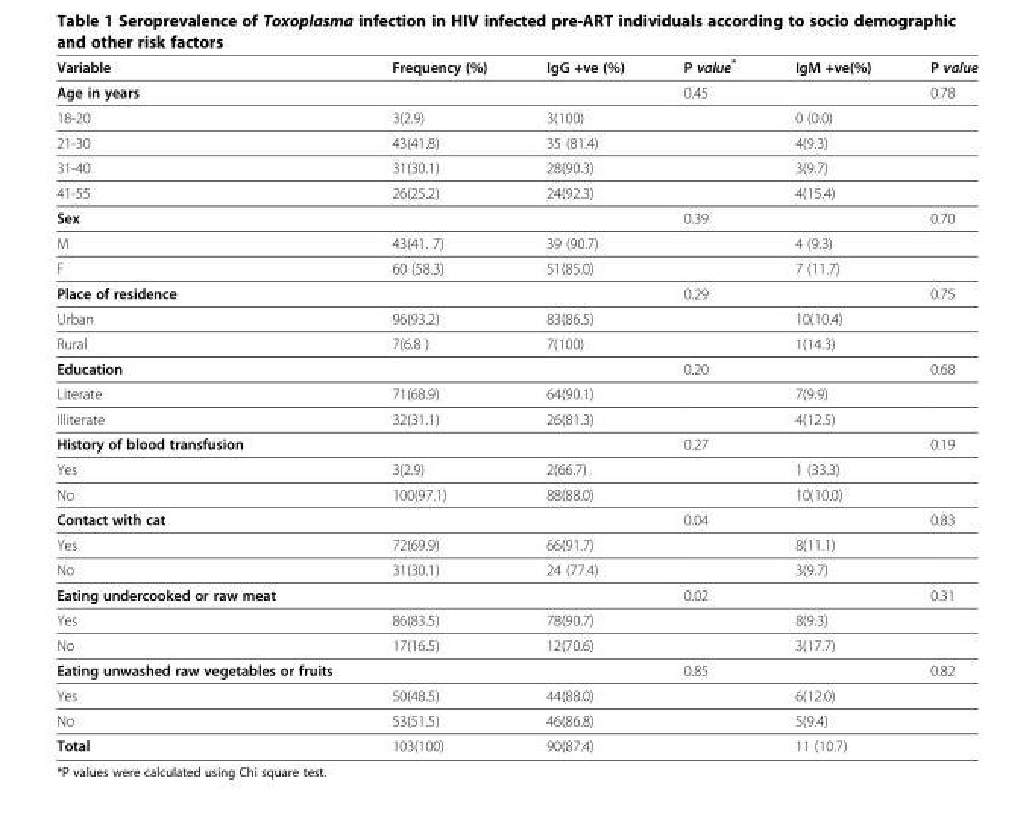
<table><thead><tr><td>Variable</td><td>Frequency (%)</td><td>IgG +ve (%)</td><td>P value*</td><td>IgM +ve(%)</td><td>P value</td></tr></thead><tbody><tr><td>Age in years</td><td></td><td></td><td>0.45</td><td></td><td>0.78</td></tr><tr><td>18-20</td><td>3(2.9)</td><td>3(100)</td><td></td><td>0 (0.0)</td><td></td></tr><tr><td>21-30</td><td>43(41.8)</td><td>35 (81.4)</td><td></td><td>4(9.3)</td><td></td></tr><tr><td>31-40</td><td>31(30.1)</td><td>28(90.3)</td><td></td><td>3(9.7)</td><td></td></tr><tr><td>41-55</td><td>26(25.2)</td><td>24(92.3)</td><td></td><td>4(15.4)</td><td></td></tr><tr><td>Sex</td><td></td><td></td><td>0.39</td><td></td><td>0.70</td></tr><tr><td>M</td><td>43(41. 7)</td><td>39 (90.7)</td><td></td><td>4 (9.3)</td><td></td></tr><tr><td>F</td><td>60 (58.3)</td><td>51(85.0)</td><td></td><td>7 (11.7)</td><td></td></tr><tr><td>Place of residence</td><td></td><td></td><td>0.29</td><td></td><td>0.75</td></tr><tr><td>Urban</td><td>96(93.2)</td><td>83(86.5)</td><td></td><td>10(10.4)</td><td></td></tr><tr><td>Rural</td><td>7(6.8 )</td><td>7(100)</td><td></td><td>1(14.3)</td><td></td></tr><tr><td>Education</td><td></td><td></td><td>0.20</td><td></td><td>0.68</td></tr><tr><td>Literate</td><td>71(68.9)</td><td>64(90.1)</td><td></td><td>7(9.9)</td><td></td></tr><tr><td>Illiterate</td><td>32(31.1)</td><td>26(81.3)</td><td></td><td>4(12.5)</td><td></td></tr><tr><td colspan="2">History of blood transfusion</td><td></td><td>0.27</td><td></td><td>0.19</td></tr><tr><td>Yes</td><td>3(2.9)</td><td>2(66.7)</td><td></td><td>1 (33.3)</td><td></td></tr><tr><td>No</td><td>100(97.1)</td><td>88(88.0)</td><td></td><td>10(10.0)</td><td></td></tr><tr><td>Contact with cat</td><td></td><td></td><td>0.04</td><td></td><td>0.83</td></tr><tr><td>Yes</td><td>72(69.9)</td><td>66(91.7)</td><td></td><td>8(11.1)</td><td></td></tr><tr><td>No</td><td>31(30.1)</td><td>24 (77.4)</td><td></td><td>3(9.7)</td><td></td></tr><tr><td>Eating undercooked or raw meat</td><td></td><td></td><td>0.02</td><td></td><td>0.31</td></tr><tr><td>Yes</td><td>86(83.5)</td><td>78(90.7)</td><td></td><td>8(9.3)</td><td></td></tr><tr><td>No</td><td>17(16.5)</td><td>12(70.6)</td><td></td><td>3(17.7)</td><td></td></tr><tr><td>Eating unwashed raw vegetables or fruits</td><td></td><td></td><td>0.85</td><td></td><td>0.82</td></tr><tr><td>Yes</td><td>50(48.5)</td><td>44(88.0)</td><td></td><td>6(12.0)</td><td></td></tr><tr><td>No</td><td>53(51.5)</td><td>46(86.8)</td><td></td><td>5(9.4)</td><td></td></tr><tr><td>Total</td><td>103(100)</td><td>90(87.4)</td><td></td><td>11 (10.7)</td><td></td></tr></tbody></table>